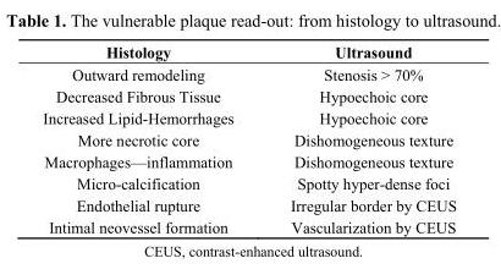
<table><thead><tr><td>Histology</td><td>Ultrasound</td></tr></thead><tbody><tr><td>Outward remodeling</td><td>Stenosis &gt; 70%</td></tr><tr><td>Decreased Fibrous Tissue</td><td>Hypoechoic core</td></tr><tr><td>Increased Lipid-Hemorrhages</td><td>Hypoechoic core</td></tr><tr><td>More necrotic core</td><td>Dishomogeneous texture</td></tr><tr><td>Macrophages—inflammation</td><td>Dishomogeneous texture</td></tr><tr><td>Micro-calcification</td><td>Spotty hyper-dense foci</td></tr><tr><td>Endothelial rupture</td><td>Irregular border by CEUS</td></tr><tr><td>Intimal neovessel formation</td><td>Vascularization by CEUS</td></tr></tbody></table>